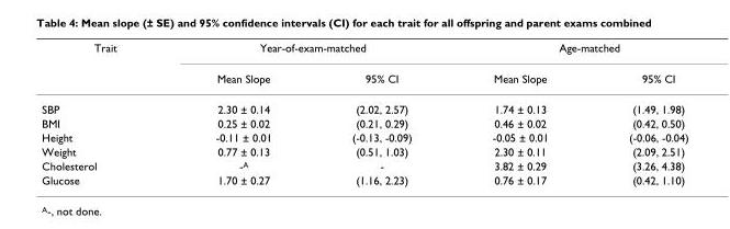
<table><thead><tr><td rowspan="2">Trait</td><td colspan="2">Year-of-exam-matched</td><td colspan="2">Age-matched</td></tr><tr><td>Mean Slope</td><td>95% CI</td><td>Mean Slope</td><td>95% CI</td></tr></thead><tbody><tr><td>SBP</td><td>2.30 ± 0.14</td><td>(2.02, 2.57)</td><td>1.74 ± 0.13</td><td>(1.49, 1.98)</td></tr><tr><td>BMI</td><td>0.25 ± 0.02</td><td>(0.21, 0.29)</td><td>0.46 ± 0.02</td><td>(0.42, 0.50)</td></tr><tr><td>Height</td><td>-0.11 ± 0.01</td><td>(-0.13, -0.09)</td><td>-0.05 ± 0.01</td><td>(-0.06, -0.04)</td></tr><tr><td>Weight</td><td>0.77 ± 0.13</td><td>(0.51, 1.03)</td><td>2.30 ± 0.11</td><td>(2.09, 2.51)</td></tr><tr><td>Cholesterol</td><td>-A</td><td>-</td><td>3.82 ± 0.29</td><td>(3.26, 4.38)</td></tr><tr><td>Glucose</td><td>1.70 ± 0.27</td><td>(1.16, 2.23)</td><td>0.76 ± 0.17</td><td>(0.42, 1.10)</td></tr></tbody></table>